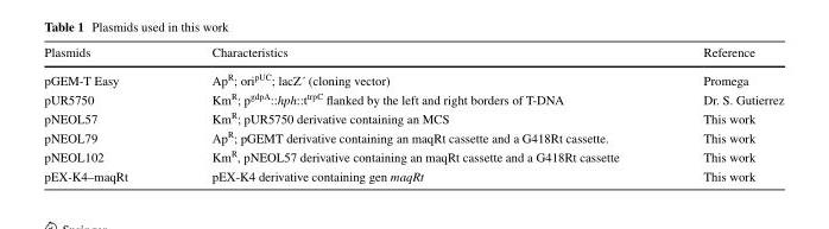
<table><thead><tr><td>Plasmids</td><td>Characteristics</td><td>Reference</td></tr></thead><tbody><tr><td>pGEM-T Easy</td><td>Ap<sup>R</sup>; ori<sup>pUC</sup>; lacZ´ (cloning vector)</td><td>Promega</td></tr><tr><td>pUR5750</td><td>Km<sup>R</sup>; p<sup>gdpA</sup>::hph::t<sup>trpC</sup> flanked by the left and right borders of T-DNA</td><td>Dr. S. Gutierrez</td></tr><tr><td>pNEOL57</td><td>Km<sup>R</sup>; pUR5750 derivative containing an MCS</td><td>This work</td></tr><tr><td>pNEOL79</td><td>Ap<sup>R</sup>; pGEMT derivative containing an maqRt cassette and a G418Rt cassette.</td><td>This work</td></tr><tr><td>pNEOL102</td><td>Km<sup>R</sup>, pNEOL57 derivative containing an maqRt cassette and a G418Rt cassette</td><td>This work</td></tr><tr><td>pEX-K4–maqRt</td><td>pEX-K4 derivative containing gen maqRt</td><td>This work</td></tr></tbody></table>